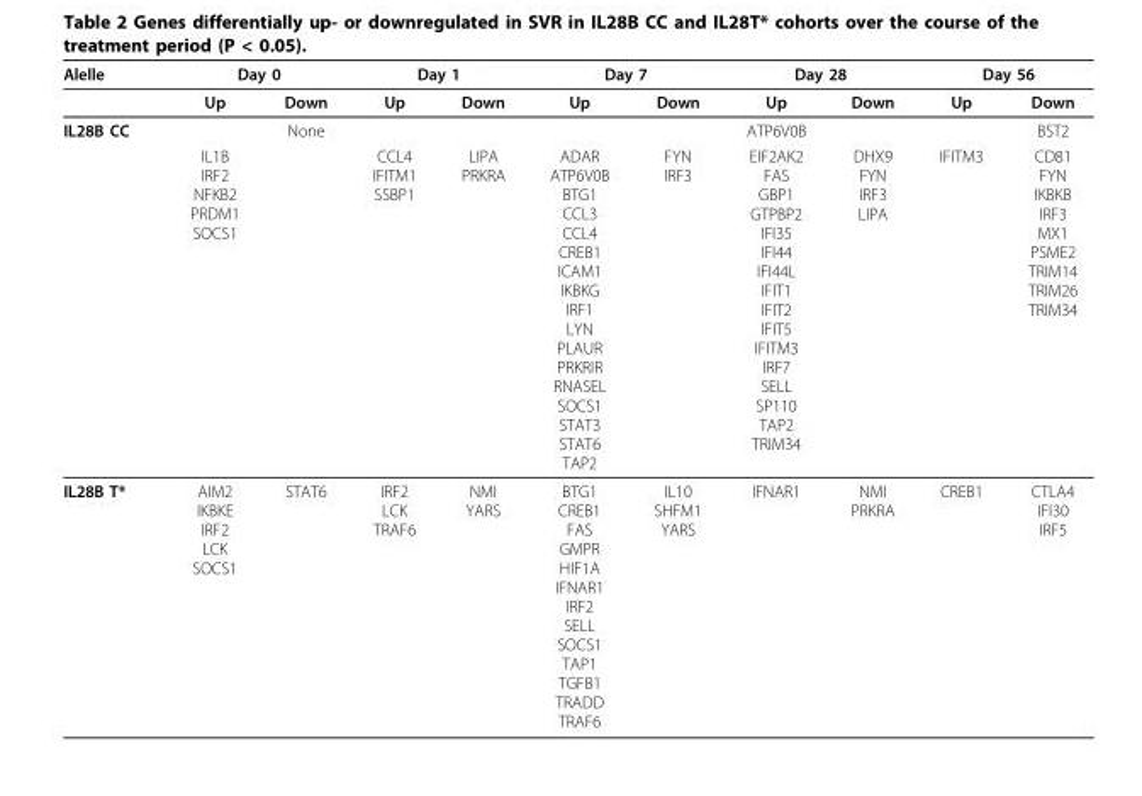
<table><thead><tr><td rowspan="2">Alelle</td><td colspan="2">Day 0</td><td colspan="2">Day 1</td><td colspan="2">Day 7</td><td colspan="2">Day 28</td><td colspan="2">Day 56</td></tr><tr><td>Up</td><td>Down</td><td>Up</td><td>Down</td><td>Up</td><td>Down</td><td>Up</td><td>Down</td><td>Up</td><td>Down</td></tr></thead><tbody><tr><td rowspan="2">IL28B CC</td><td></td><td>None</td><td></td><td></td><td></td><td></td><td>ATP6V0B</td><td></td><td></td><td>BST2</td></tr><tr><td>IL1B IRF2 NFKB2 PRDM1 SOCS1</td><td></td><td>CCL4 IFITM1 SSBP1</td><td>LIPA PRKRA</td><td>ADAR ATP6V0B BTG1 CCL3 CCL4 CREB1 ICAM1 IKBKG IRF1 LYN PLAUR PRKRIR RNASEL SOCS1 STAT3 STAT6 TAP2</td><td>FYN IRF3</td><td>EIF2AK2 FAS GBP1 GTPBP2 IFI35 IFI44 IFI44L IFIT1 IFIT2 IFIT5 IFITM3 IRF7 SELL SP110 TAP2 TRIM34</td><td>DHX9 FYN IRF3 LIPA</td><td>IFITM3</td><td>CD81 FYN IKBKB IRF3 MX1 PSME2 TRIM14 TRIM26 TRIM34</td></tr><tr><td>IL28B T*</td><td>AIM2 IKBKE IRF2 LCK SOCS1</td><td>STAT6</td><td>IRF2 LCK TRAF6</td><td>NMI YARS</td><td>BTG1 CREB1 FAS GMPR HIF1A IFNAR1 IRF2 SELL SOCS1 TAP1 TGFB1 TRADD TRAF6</td><td>IL10 SHFM1 YARS</td><td>IFNAR1</td><td>NMI PRKRA</td><td>CREB1</td><td>CTLA4 IFI30 IRF5</td></tr></tbody></table>